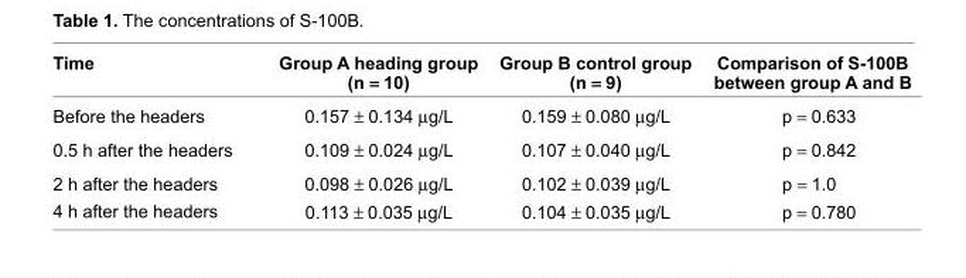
<table><thead><tr><td>Time</td><td>Group A heading group (n = 10)</td><td>Group B control group (n = 9)</td><td>Comparison of S-100B between group A and B</td></tr></thead><tbody><tr><td>Before the headers</td><td>0.157 ± 0.134 μg/L</td><td>0.159 ± 0.080 μg/L</td><td>p = 0.633</td></tr><tr><td>0.5 h after the headers</td><td>0.109 ± 0.024 μg/L</td><td>0.107 ± 0.040 μg/L</td><td>p = 0.842</td></tr><tr><td>2 h after the headers</td><td>0.098 ± 0.026 μg/L</td><td>0.102 ± 0.039 μg/L</td><td>p = 1.0</td></tr><tr><td>4 h after the headers</td><td>0.113 ± 0.035 μg/L</td><td>0.104 ± 0.035 μg/L</td><td>p = 0.780</td></tr></tbody></table>